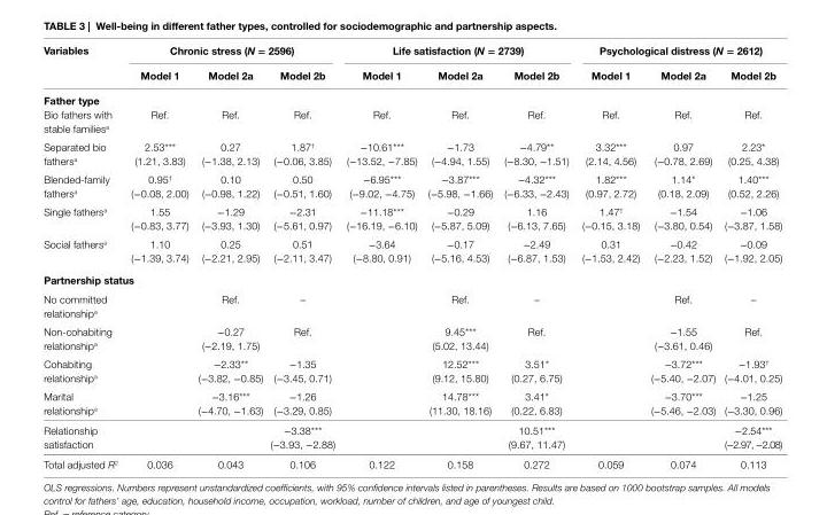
<table><thead><tr><td rowspan="2">Variables</td><td colspan="3">chronic stress (N = 2596)</td><td colspan="3">life satisfaction (N = 2739)</td><td colspan="3">Psychological distress (N = 2612)</td></tr><tr><td>Model 1</td><td>Model 2a</td><td>Model 2b</td><td>Model 1</td><td>Model 2a</td><td>Model 2b</td><td>Model 1</td><td>Model 2a</td><td>Model 2b</td></tr></thead><tbody><tr><td colspan="10">Father type</td></tr><tr><td>Bio fathers with stable families<sup>a</sup></td><td>Ref.</td><td>Ref.</td><td>Ref.</td><td>Ref.</td><td>Ref.</td><td>Ref.</td><td>Ref.</td><td>Ref.</td><td>Ref.</td></tr><tr><td>Separated bio fathers<sup>a</sup></td><td>2.53*** (1.21, 3.83)</td><td>0.27 (−1.38, 2.13)</td><td>1.87<sup>†</sup> (−0.06, 3.85)</td><td>−10.61*** (−13.52, −7.85)</td><td>−1.73 (−4.94, 1.55)</td><td>−4.79** (−8.30, −1.51)</td><td>3.32*** (2.14, 4.56)</td><td>0.97 (−0.78, 2.69)</td><td>2.23* (0.25, 4.38)</td></tr><tr><td>Blended-family fathers<sup>a</sup></td><td>0.95<sup>†</sup> (−0.08, 2.00)</td><td>0.10 (−0.98, 1.22)</td><td>0.50 (−0.51, 1.60)</td><td>−6.95*** (−9.02, −4.75)</td><td>−3.87*** (−5.98, −1.66)</td><td>−4.32*** (−6.33, −2.43)</td><td>1.82*** (0.97, 2.72)</td><td>1.14* (0.18, 2.09)</td><td>1.40*** (0.52, 2.26)</td></tr><tr><td>Single fathers<sup>a</sup></td><td>1.55 (−0.83, 3.77)</td><td>−1.29 (−3.93, 1.30)</td><td>−2.31 (−5.61, 0.97)</td><td>−11.18*** (−16.19, −6.10)</td><td>−0.29 (−5.87, 5.09)</td><td>1.16 (−6.13, 7.65)</td><td>1.47<sup>†</sup> (−0.15, 3.18)</td><td>−1.54 (−3.80, 0.54)</td><td>−1.06 (−3.87, 1.58)</td></tr><tr><td>Social fathers<sup>a</sup></td><td>1.10 (−1.39, 3.74)</td><td>0.25 (−2.21, 2.95)</td><td>0.51 (−2.11, 3.47)</td><td>−3.64 (−8.80, 0.91)</td><td>−0.17 (−5.16, 4.53)</td><td>−2.49 (−6.87, 1.53)</td><td>0.31 (−1.53, 2.42)</td><td>−0.42 (−2.23, 1.52)</td><td>−0.09 (−1.92, 2.05)</td></tr><tr><td colspan="10">Partnership status</td></tr><tr><td>No committed relationship<sup>a</sup></td><td></td><td>Ref.</td><td>–</td><td></td><td>Ref.</td><td>–</td><td></td><td>Ref.</td><td>–</td></tr><tr><td>Non-cohabiting relationship<sup>a</sup></td><td></td><td>−0.27 (−2.19, 1.75)</td><td>Ref.</td><td></td><td>9.45*** (5.02, 13.44)</td><td>Ref.</td><td></td><td>−1.55 (−3.61, 0.46)</td><td>Ref.</td></tr><tr><td>Cohabiting relationship<sup>a</sup></td><td></td><td>−2.33** (−3.82, −0.85)</td><td>−1.35 (−3.45, 0.71)</td><td></td><td>12.52*** (9.12, 15.80)</td><td>3.51* (0.27, 6.75)</td><td></td><td>−3.72*** (−5.40, −2.07)</td><td>−1.93<sup>†</sup> (−4.01, 0.25)</td></tr><tr><td>Marital relationship<sup>a</sup></td><td></td><td>−3.16*** (−4.70, −1.63)</td><td>−1.26 (−3.29, 0.85)</td><td></td><td>14.78*** (11.30, 18.16)</td><td>3.41* (0.22, 6.83)</td><td></td><td>−3.70*** (−5.46, −2.03)</td><td>−1.25 (−3.30, 0.96)</td></tr><tr><td>Relationship satisfaction</td><td></td><td></td><td>−3.38*** (−3.93, −2.88)</td><td></td><td></td><td>10.51*** (9.67, 11.47)</td><td></td><td></td><td>−2.54*** (−2.97, −2.08)</td></tr><tr><td>Total adjusted R<sup>2</sup></td><td>0.036</td><td>0.043</td><td>0.106</td><td>0.122</td><td>0.158</td><td>0.272</td><td>0.059</td><td>0.074</td><td>0.113</td></tr></tbody></table>